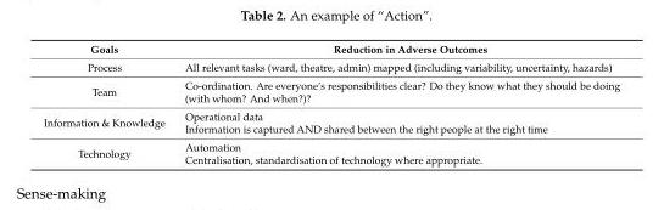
<table><thead><tr><td>Goals</td><td>Reduction in Adverse Outcomes</td></tr></thead><tbody><tr><td>Process</td><td>All relevant tasks (ward, theatre, admin) mapped (including variability, uncertainty, hazards)</td></tr><tr><td>Team</td><td>Co-ordination. Are everyone’s responsibilities clear? Do they know what they should be doing (with whom? And when?)?</td></tr><tr><td>Information &amp; Knowledge</td><td>Operational data Information is captured AND shared between the right people at the right time</td></tr><tr><td>Technology</td><td>Automation Centralisation, standardisation of technology where appropriate.</td></tr></tbody></table>